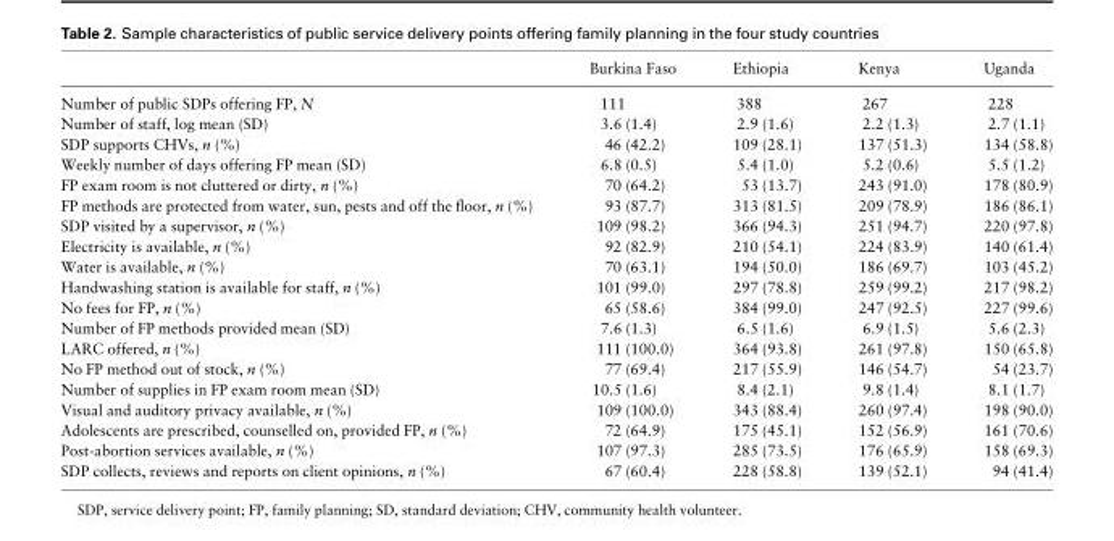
<table><thead><tr><td></td><td>Burkina Faso</td><td>Ethiopia</td><td>Kenya</td><td>Uganda</td></tr></thead><tbody><tr><td>Number of public SDPs offering FP, N</td><td>111</td><td>388</td><td>267</td><td>228</td></tr><tr><td>Number of staff, log mean (SD)</td><td>3.6 (1.4)</td><td>2.9 (1.6)</td><td>2.2 (1.3)</td><td>2.7 (1.1)</td></tr><tr><td>SDP supports CHVs, n (%)</td><td>46 (42.2)</td><td>109 (28.1)</td><td>137 (51.3)</td><td>134 (58.8)</td></tr><tr><td>Weekly number of days offering FP mean (SD)</td><td>6.8 (0.5)</td><td>5.4 (1.0)</td><td>5.2 (0.6)</td><td>5.5 (1.2)</td></tr><tr><td>FP exam room is not cluttered or dirty, n (%)</td><td>70 (64.2)</td><td>53 (13.7)</td><td>243 (91.0)</td><td>178 (80.9)</td></tr><tr><td>FP methods are protected from water, sun, pests and off the floor, n (%)</td><td>93 (87.7)</td><td>313 (81.5)</td><td>209 (78.9)</td><td>186 (86.1)</td></tr><tr><td>SDP visited by a supervisor, n (%)</td><td>109 (98.2)</td><td>366 (94.3)</td><td>251 (94.7)</td><td>220 (97.8)</td></tr><tr><td>Electricity is available, n (%)</td><td>92 (82.9)</td><td>210 (54.1)</td><td>224 (83.9)</td><td>140 (61.4)</td></tr><tr><td>Water is available, n (%)</td><td>70 (63.1)</td><td>194 (50.0)</td><td>186 (69.7)</td><td>103 (45.2)</td></tr><tr><td>Handwashing station is available for staff, n (%)</td><td>101 (99.0)</td><td>297 (78.8)</td><td>259 (99.2)</td><td>217 (98.2)</td></tr><tr><td>No fees for FP, n (%)</td><td>65 (58.6)</td><td>384 (99.0)</td><td>247 (92.5)</td><td>227 (99.6)</td></tr><tr><td>Number of FP methods provided mean (SD)</td><td>7.6 (1.3)</td><td>6.5 (1.6)</td><td>6.9 (1.5)</td><td>5.6 (2.3)</td></tr><tr><td>LARC offered, n (%)</td><td>111 (100.0)</td><td>364 (93.8)</td><td>261 (97.8)</td><td>150 (65.8)</td></tr><tr><td>No FP method out of stock, n (%)</td><td>77 (69.4)</td><td>217 (55.9)</td><td>146 (54.7)</td><td>54 (23.7)</td></tr><tr><td>Number of supplies in FP exam room mean (SD)</td><td>10.5 (1.6)</td><td>8.4 (2.1)</td><td>9.8 (1.4)</td><td>8.1 (1.7)</td></tr><tr><td>Visual and auditory privacy available, n (%)</td><td>109 (100.0)</td><td>343 (88.4)</td><td>260 (97.4)</td><td>198 (90.0)</td></tr><tr><td>Adolescents are prescribed, counselled on, provided FP, n (%)</td><td>72 (64.9)</td><td>175 (45.1)</td><td>152 (56.9)</td><td>161 (70.6)</td></tr><tr><td>Post-abortion services available, n (%)</td><td>107 (97.3)</td><td>285 (73.5)</td><td>176 (65.9)</td><td>158 (69.3)</td></tr><tr><td>SDP collects, reviews and reports on client opinions, n (%)</td><td>67 (60.4)</td><td>228 (58.8)</td><td>139 (52.1)</td><td>94 (41.4)</td></tr></tbody></table>